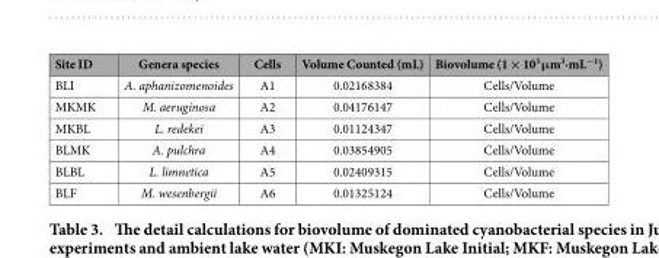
<table><thead><tr><td>Site ID</td><td>Genera species</td><td>Cells</td><td>Volume Counted (mL)</td><td>Biovolume (1 × 10<sup>3</sup> μm<sup>3</sup>·mL<sup>−1</sup>)</td></tr></thead><tbody><tr><td>BLI</td><td>A. aphanizomenoides</td><td>A1</td><td>0.02168384</td><td>Cells/Volume</td></tr><tr><td>MKMK</td><td>M. aeruginosa</td><td>A2</td><td>0.04176147</td><td>Cells/Volume</td></tr><tr><td>MKBL</td><td>L. redekei</td><td>A3</td><td>0.01124347</td><td>Cells/Volume</td></tr><tr><td>BLMK</td><td>A. pulchra</td><td>A4</td><td>0.03854905</td><td>Cells/Volume</td></tr><tr><td>BLBL</td><td>L. limnetica</td><td>A5</td><td>0.02409315</td><td>Cells/Volume</td></tr><tr><td>BLF</td><td>M. wesenbergii</td><td>A6</td><td>0.01325124</td><td>Cells/Volume</td></tr></tbody></table>